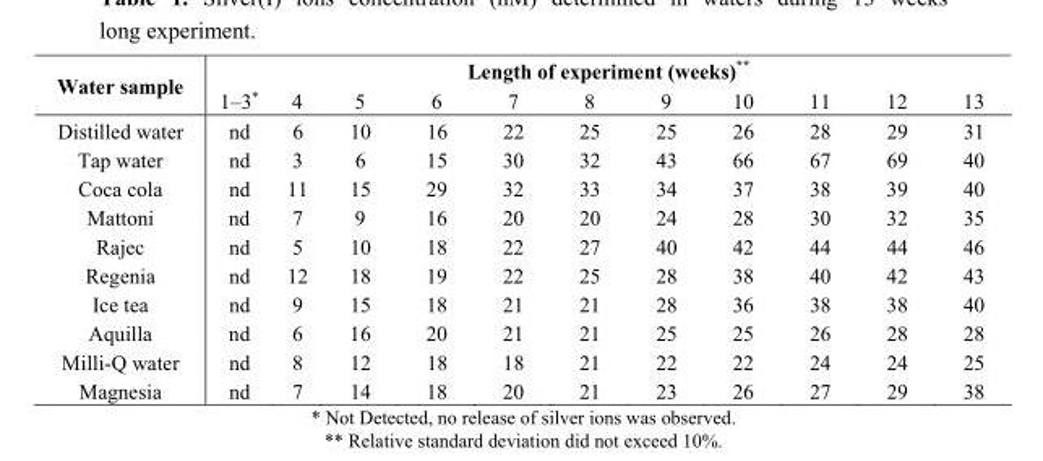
<table><thead><tr><td rowspan="2">Water sample</td><td colspan="11">Length of experiment (weeks)**</td></tr><tr><td>1–3∗</td><td>4</td><td>5</td><td>6</td><td>7</td><td>8</td><td>9</td><td>10</td><td>11</td><td>12</td><td>13</td></tr></thead><tbody><tr><td>Distilled water</td><td>nd</td><td>6</td><td>10</td><td>16</td><td>22</td><td>25</td><td>25</td><td>26</td><td>28</td><td>29</td><td>31</td></tr><tr><td>Tap water</td><td>nd</td><td>3</td><td>6</td><td>15</td><td>30</td><td>32</td><td>43</td><td>66</td><td>67</td><td>69</td><td>40</td></tr><tr><td>Coca cola</td><td>nd</td><td>11</td><td>15</td><td>29</td><td>32</td><td>33</td><td>34</td><td>37</td><td>38</td><td>39</td><td>40</td></tr><tr><td>Mattoni</td><td>nd</td><td>7</td><td>9</td><td>16</td><td>20</td><td>20</td><td>24</td><td>28</td><td>30</td><td>32</td><td>35</td></tr><tr><td>Rajec</td><td>nd</td><td>5</td><td>10</td><td>18</td><td>22</td><td>27</td><td>40</td><td>42</td><td>44</td><td>44</td><td>46</td></tr><tr><td>Regenia</td><td>nd</td><td>12</td><td>18</td><td>19</td><td>22</td><td>25</td><td>28</td><td>38</td><td>40</td><td>42</td><td>43</td></tr><tr><td>Ice tea</td><td>nd</td><td>9</td><td>15</td><td>18</td><td>21</td><td>21</td><td>28</td><td>36</td><td>38</td><td>38</td><td>40</td></tr><tr><td>Aquilla</td><td>nd</td><td>6</td><td>16</td><td>20</td><td>21</td><td>21</td><td>25</td><td>25</td><td>26</td><td>28</td><td>28</td></tr><tr><td>Milli-Q water</td><td>nd</td><td>8</td><td>12</td><td>18</td><td>18</td><td>21</td><td>22</td><td>22</td><td>24</td><td>24</td><td>25</td></tr><tr><td>Magnesia</td><td>nd</td><td>7</td><td>14</td><td>18</td><td>20</td><td>21</td><td>23</td><td>26</td><td>27</td><td>29</td><td>38</td></tr></tbody></table>